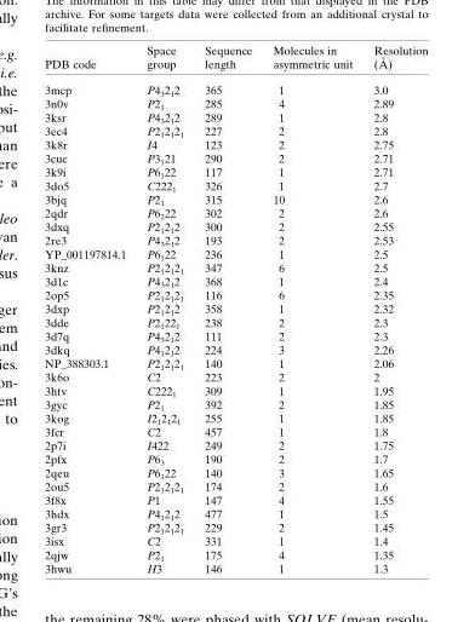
<table><thead><tr><td>PDB code</td><td>Space group</td><td>Sequence length</td><td>Molecules in asymmetric unit</td><td>Resolution (A˚ )</td></tr></thead><tbody><tr><td>3mcp</td><td>P4<sub>3</sub>2<sub>1</sub>2</td><td>365</td><td>1</td><td>3.0</td></tr><tr><td>3n0v</td><td>P2<sub>1</sub></td><td>285</td><td>4</td><td>2.89</td></tr><tr><td>3ksr</td><td>P4<sub>3</sub>2<sub>1</sub>2</td><td>289</td><td>1</td><td>2.8</td></tr><tr><td>3ec4</td><td>P2<sub>1</sub>2<sub>1</sub>2<sub>1</sub></td><td>227</td><td>2</td><td>2.8</td></tr><tr><td>3k8r</td><td>I4</td><td>123</td><td>2</td><td>2.75</td></tr><tr><td>3cuc</td><td>P3<sub>1</sub>21</td><td>290</td><td>2</td><td>2.71</td></tr><tr><td>3k9i</td><td>P6<sub>1</sub>22</td><td>117</td><td>1</td><td>2.71</td></tr><tr><td>3do5</td><td>C222<sub>1</sub></td><td>326</td><td>1</td><td>2.7</td></tr><tr><td>3bjq</td><td>P2<sub>1</sub></td><td>315</td><td>10</td><td>2.6</td></tr><tr><td>2qdr</td><td>P6<sub>2</sub>22</td><td>302</td><td>2</td><td>2.6</td></tr><tr><td>3dxq</td><td>P2<sub>1</sub>2<sub>1</sub>2</td><td>300</td><td>2</td><td>2.55</td></tr><tr><td>2re3</td><td>P4<sub>3</sub>2<sub>1</sub>2</td><td>193</td><td>2</td><td>2.53</td></tr><tr><td>YP_001197814.1</td><td>P6<sub>1</sub>22</td><td>236</td><td>1</td><td>2.5</td></tr><tr><td>3knz</td><td>P2<sub>1</sub>2<sub>1</sub>2<sub>1</sub></td><td>347</td><td>6</td><td>2.5</td></tr><tr><td>3d1c</td><td>P4<sub>3</sub>2<sub>1</sub>2</td><td>368</td><td>1</td><td>2.4</td></tr><tr><td>2op5</td><td>P2<sub>1</sub>2<sub>1</sub>2<sub>1</sub></td><td>116</td><td>6</td><td>2.35</td></tr><tr><td>3dxp</td><td>P2<sub>1</sub>2<sub>1</sub>2</td><td>358</td><td>1</td><td>2.32</td></tr><tr><td>3dde</td><td>P2<sub>1</sub>22<sub>1</sub></td><td>238</td><td>2</td><td>2.3</td></tr><tr><td>3d7q</td><td>P4<sub>3</sub>2<sub>1</sub>2</td><td>111</td><td>2</td><td>2.3</td></tr><tr><td>3dkq</td><td>P4<sub>1</sub>2<sub>1</sub>2</td><td>224</td><td>3</td><td>2.26</td></tr><tr><td>NP_388303.1</td><td>P2<sub>1</sub>2<sub>1</sub>2<sub>1</sub></td><td>140</td><td>1</td><td>2.06</td></tr><tr><td>3k6o</td><td>C2</td><td>223</td><td>2</td><td>2</td></tr><tr><td>3htv</td><td>C222<sub>1</sub></td><td>309</td><td>1</td><td>1.95</td></tr><tr><td>3gyc</td><td>P2<sub>1</sub></td><td>392</td><td>2</td><td>1.85</td></tr><tr><td>3kog</td><td>I2<sub>1</sub>2<sub>1</sub>2<sub>1</sub></td><td>255</td><td>1</td><td>1.85</td></tr><tr><td>3fcr</td><td>C2</td><td>457</td><td>1</td><td>1.8</td></tr><tr><td>2p7i</td><td>I422</td><td>249</td><td>2</td><td>1.75</td></tr><tr><td>2pfx</td><td>P6<sub>3</sub></td><td>190</td><td>2</td><td>1.7</td></tr><tr><td>2qeu</td><td>P6<sub>1</sub>22</td><td>140</td><td>3</td><td>1.65</td></tr><tr><td>2ou5</td><td>P2<sub>1</sub>2<sub>1</sub>2<sub>1</sub></td><td>174</td><td>2</td><td>1.6</td></tr><tr><td>3f8x</td><td>P1</td><td>147</td><td>4</td><td>1.55</td></tr><tr><td>3hdx</td><td>P4<sub>1</sub>2<sub>1</sub>2</td><td>477</td><td>1</td><td>1.5</td></tr><tr><td>3gr3</td><td>P2<sub>1</sub>2<sub>1</sub>2<sub>1</sub></td><td>229</td><td>2</td><td>1.45</td></tr><tr><td>3isx</td><td>C2</td><td>331</td><td>1</td><td>1.4</td></tr><tr><td>2qjw</td><td>P2<sub>1</sub></td><td>175</td><td>4</td><td>1.35</td></tr><tr><td>3hwu</td><td>H3</td><td>146</td><td>1</td><td>1.3</td></tr></tbody></table>